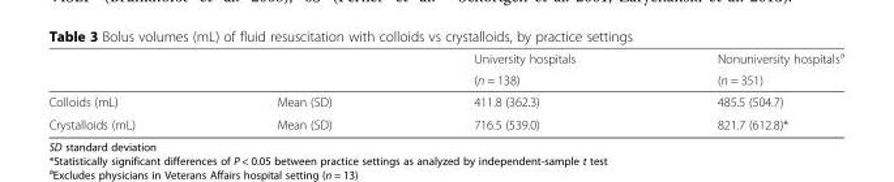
<table><thead><tr><td rowspan="2"></td><td rowspan="2"></td><td rowspan="2">University hospitals (n = 138)</td><td rowspan="2">Nonuniversity hospitals<sup>a</sup> (n = 351)</td></tr><tr></tr></thead><tbody><tr><td>Colloids (mL)</td><td>Mean (SD)</td><td>411.8 (362.3)</td><td>485.5 (504.7)</td></tr><tr><td>Crystalloids (mL)</td><td>Mean (SD)</td><td>716.5 (539.0)</td><td>821.7 (612.8)*</td></tr></tbody></table>